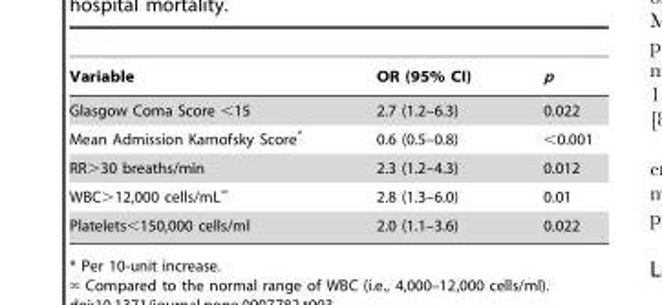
<table><thead><tr><td>Variable</td><td>OR (95% CI)</td><td>p</td></tr></thead><tbody><tr><td>Glasgow Coma Score &lt;15</td><td>2.7 (1.2–6.3)</td><td>0.022</td></tr><tr><td>Mean Admission Karnofsky Score*</td><td>0.6 (0.5–0.8)</td><td>&lt;0.001</td></tr><tr><td>RR&gt;30 breaths/min</td><td>2.3 (1.2–4.3)</td><td>0.012</td></tr><tr><td>WBC.12,000 cells/mL‘</td><td>2.8 (1.3–6.0)</td><td>0.01</td></tr><tr><td>Platelets&lt;150,000 cells/ml</td><td>2.0 (1.1–3.6)</td><td>0.022</td></tr></tbody></table>